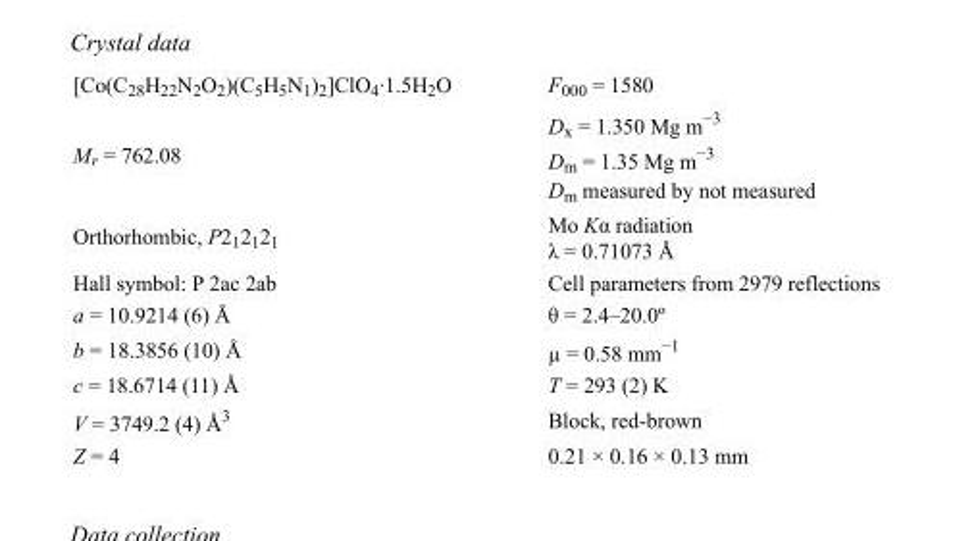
<table><tbody><tr><td>[Co(C28H22N2O2)(C5H5N1)2]ClO4·1.5H2O</td><td>F000 = 1580</td></tr><tr><td>M<sub>r</sub> = 762.08</td><td>D<sub>x</sub> = 1.350 Mg m<sup>−3</sup> D<sub>m</sub> = 1.35 Mg m<sup>−3</sup> D<sub>m</sub> measured by not measured</td></tr><tr><td>Orthorhombic, P2<sub>1</sub>2<sub>1</sub>2<sub>1</sub></td><td>Mo Kα radiation λ = 0.71073 Å</td></tr><tr><td>Hall symbol: P 2ac 2ab</td><td>Cell parameters from 2979 reflections</td></tr><tr><td>a = 10.9214 (6) Å</td><td>θ = 2.4–20.0º</td></tr><tr><td>b = 18.3856 (10) Å</td><td>µ = 0.58 mm<sup>−1</sup></td></tr><tr><td>c = 18.6714 (11) Å</td><td>T = 293 (2) K</td></tr><tr><td>V = 3749.2 (4) Å<sup>3</sup></td><td>Block, red-brown</td></tr><tr><td>Z = 4</td><td>0.21 × 0.16 × 0.13 mm</td></tr></tbody></table>